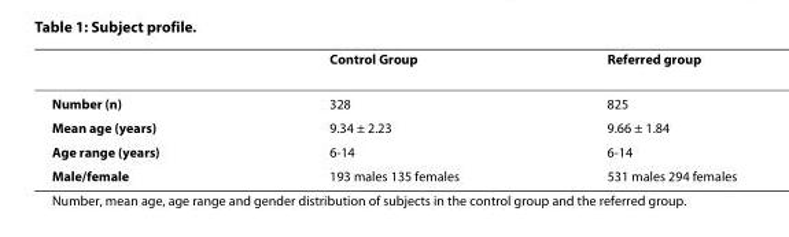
<table><thead><tr><td></td><td>Control Group</td><td>Referred group</td></tr></thead><tbody><tr><td>Number (n)</td><td>328</td><td>825</td></tr><tr><td>Mean age (years)</td><td>9.34 ± 2.23</td><td>9.66 ± 1.84</td></tr><tr><td>Age range (years)</td><td>6-14</td><td>6-14</td></tr><tr><td>Male/female</td><td>193 males 135 females</td><td>531 males 294 females</td></tr></tbody></table>